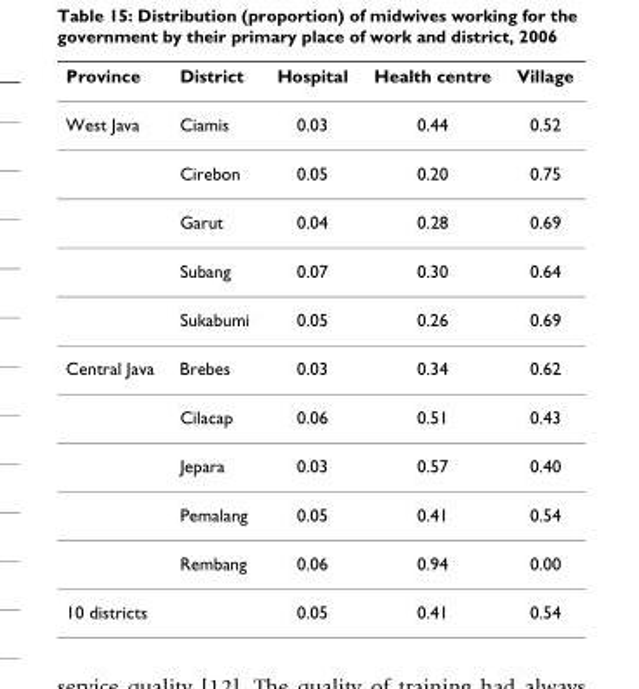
<table><thead><tr><td>Province</td><td>District</td><td>Hospital</td><td>Health centre</td><td>Village</td></tr></thead><tbody><tr><td rowspan="5">West Java</td><td>Ciamis</td><td>0.03</td><td>0.44</td><td>0.52</td></tr><tr><td>Cirebon</td><td>0.05</td><td>0.20</td><td>0.75</td></tr><tr><td>Garut</td><td>0.04</td><td>0.28</td><td>0.69</td></tr><tr><td>Subang</td><td>0.07</td><td>0.30</td><td>0.64</td></tr><tr><td>Sukabumi</td><td>0.05</td><td>0.26</td><td>0.69</td></tr><tr><td rowspan="5">Central Java</td><td>Brebes</td><td>0.03</td><td>0.34</td><td>0.62</td></tr><tr><td>Cilacap</td><td>0.06</td><td>0.51</td><td>0.43</td></tr><tr><td>Jepara</td><td>0.03</td><td>0.57</td><td>0.40</td></tr><tr><td>Pemalang</td><td>0.05</td><td>0.41</td><td>0.54</td></tr><tr><td>Rembang</td><td>0.06</td><td>0.94</td><td>0.00</td></tr><tr><td>10 districts</td><td></td><td>0.05</td><td>0.41</td><td>0.54</td></tr></tbody></table>